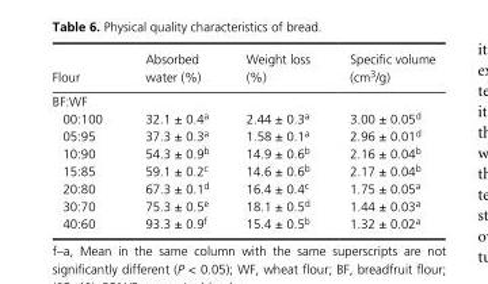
<table><thead><tr><td>Flour</td><td>Absorbed water (%)</td><td>Weight loss (%)</td><td>Specific volume (cm<sup>3</sup>/g)</td></tr></thead><tbody><tr><td colspan="4">BF:WF</td></tr><tr><td>00:100</td><td>32.1 ± 0.4<sup>a</sup></td><td>2.44 ± 0.3<sup>a</sup></td><td>3.00 ± 0.05<sup>d</sup></td></tr><tr><td>05:95</td><td>37.3 ± 0.3<sup>a</sup></td><td>1.58 ± 0.1<sup>a</sup></td><td>2.96 ± 0.01<sup>d</sup></td></tr><tr><td>10:90</td><td>54.3 ± 0.9<sup>b</sup></td><td>14.9 ± 0.6<sup>b</sup></td><td>2.16 ± 0.04<sup>b</sup></td></tr><tr><td>15:85</td><td>59.1 ± 0.2<sup>c</sup></td><td>14.6 ± 0.6<sup>b</sup></td><td>2.17 ± 0.04<sup>b</sup></td></tr><tr><td>20:80</td><td>67.3 ± 0.1<sup>d</sup></td><td>16.4 ± 0.4<sup>c</sup></td><td>1.75 ± 0.05<sup>a</sup></td></tr><tr><td>30:70</td><td>75.3 ± 0.5<sup>e</sup></td><td>18.1 ± 0.5<sup>d</sup></td><td>1.44 ± 0.03<sup>a</sup></td></tr><tr><td>40:60</td><td>93.3 ± 0.9<sup>f</sup></td><td>15.4 ± 0.5<sup>b</sup></td><td>1.32 ± 0.02<sup>a</sup></td></tr></tbody></table>